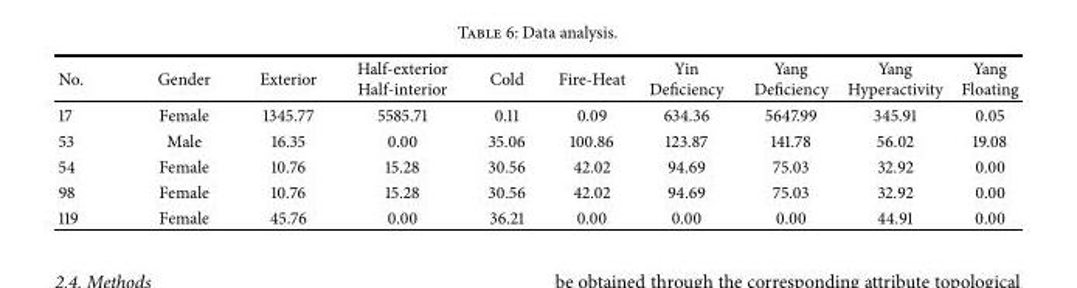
<table><thead><tr><td>No.</td><td>Gender</td><td>Exterior</td><td>Half-exterior Half-interior</td><td>Cold</td><td>Fire-Heat</td><td>Yin Deficiency</td><td>Yang Deficiency</td><td>Yang Hyperactivity</td><td>Yang Floating</td></tr></thead><tbody><tr><td>17</td><td>Female</td><td>1345.77</td><td>5585.71</td><td>0.11</td><td>0.09</td><td>634.36</td><td>5647.99</td><td>345.91</td><td>0.05</td></tr><tr><td>53</td><td>Male</td><td>16.35</td><td>0.00</td><td>35.06</td><td>100.86</td><td>123.87</td><td>141.78</td><td>56.02</td><td>19.08</td></tr><tr><td>54</td><td>Female</td><td>10.76</td><td>15.28</td><td>30.56</td><td>42.02</td><td>94.69</td><td>75.03</td><td>32.92</td><td>0.00</td></tr><tr><td>98</td><td>Female</td><td>10.76</td><td>15.28</td><td>30.56</td><td>42.02</td><td>94.69</td><td>75.03</td><td>32.92</td><td>0.00</td></tr><tr><td>119</td><td>Female</td><td>45.76</td><td>0.00</td><td>36.21</td><td>0.00</td><td>0.00</td><td>0.00</td><td>44.91</td><td>0.00</td></tr></tbody></table>